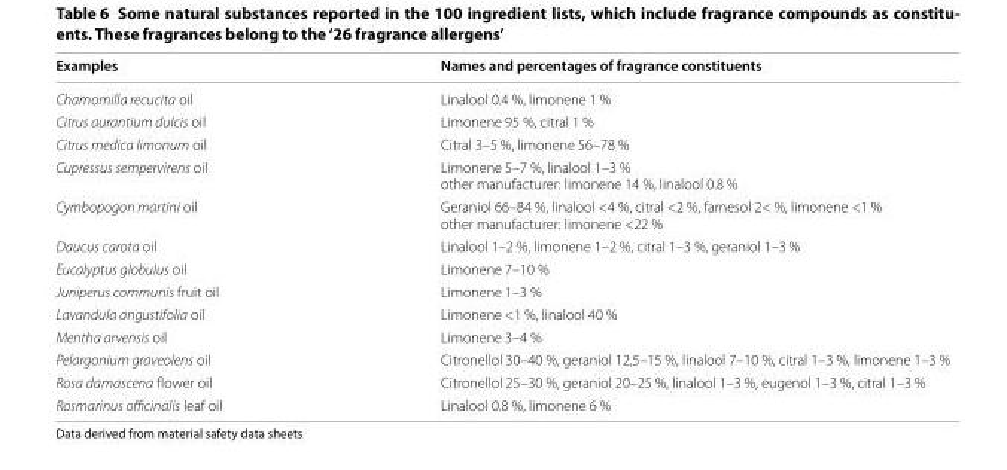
<table><thead><tr><td>Examples</td><td>Names and percentages of fragrance constituents</td></tr></thead><tbody><tr><td>Chamomilla recucita oil</td><td>Linalool 0.4 %, limonene 1 %</td></tr><tr><td>Citrus aurantium dulcis oil</td><td>Limonene 95 %, citral 1 %</td></tr><tr><td>Citrus medica limonum oil</td><td>Citral 3–5 %, limonene 56–78 %</td></tr><tr><td>Cupressus sempervirens oil</td><td>Limonene 5–7 %, linalool 1–3 % other manufacturer: limonene 14 %, linalool 0.8 %</td></tr><tr><td>Cymbopogon martini oil</td><td>Geraniol 66–84 %, linalool &lt;4 %, citral &lt;2 %, farnesol 2&lt; %, limonene &lt;1 % other manufacturer: limonene &lt;22 %</td></tr><tr><td>Daucus carota oil</td><td>Linalool 1–2 %, limonene 1–2 %, citral 1–3 %, geraniol 1–3 %</td></tr><tr><td>Eucalyptus globulus oil</td><td>Limonene 7–10 %</td></tr><tr><td>Juniperus communis fruit oil</td><td>Limonene 1–3 %</td></tr><tr><td>Lavandula angustifolia oil</td><td>Limonene &lt;1 %, linalool 40 %</td></tr><tr><td>Mentha arvensis oil</td><td>Limonene 3–4 %</td></tr><tr><td>Pelargonium graveolens oil</td><td>Citronellol 30–40 %, geraniol 12,5–15 %, linalool 7–10 %, citral 1–3 %, limonene 1–3 %</td></tr><tr><td>Rosa damascena flower oil</td><td>Citronellol 25–30 %, geraniol 20–25 %, linalool 1–3 %, eugenol 1–3 %, citral 1–3 %</td></tr><tr><td>Rosmarinus officinalis leaf oil</td><td>Linalool 0.8 %, limonene 6 %</td></tr></tbody></table>